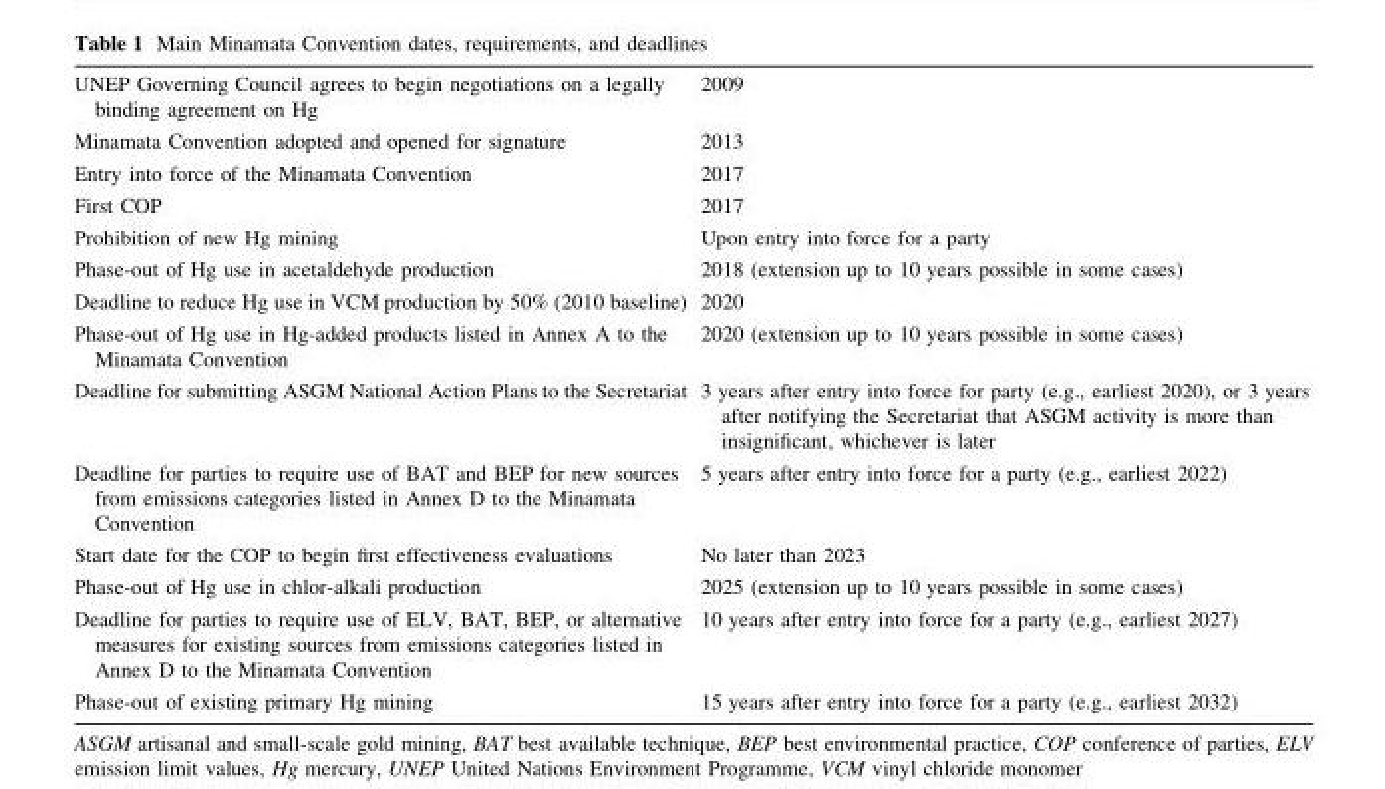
<table><tbody><tr><td>UNEP Governing Council agrees to begin negotiations on a legally binding agreement on Hg</td><td>2009</td></tr><tr><td>Minamata Convention adopted and opened for signature</td><td>2013</td></tr><tr><td>Entry into force of the Minamata Convention</td><td>2017</td></tr><tr><td>First COP</td><td>2017</td></tr><tr><td>Prohibition of new Hg mining</td><td>Upon entry into force for a party</td></tr><tr><td>Phase-out of Hg use in acetaldehyde production</td><td>2018 (extension up to 10 years possible in some cases)</td></tr><tr><td>Deadline to reduce Hg use in VCM production by 50% (2010 baseline)</td><td>2020</td></tr><tr><td>Phase-out of Hg use in Hg-added products listed in Annex A to the Minamata Convention</td><td>2020 (extension up to 10 years possible in some cases)</td></tr><tr><td>Deadline for submitting ASGM National Action Plans to the Secretariat</td><td>3 years after entry into force for party (e.g., earliest 2020), or 3 years after notifying the Secretariat that ASGM activity is more than insignificant, whichever is later</td></tr><tr><td>Deadline for parties to require use of BAT and BEP for new sources from emissions categories listed in Annex D to the Minamata Convention</td><td>5 years after entry into force for a party (e.g., earliest 2022)</td></tr><tr><td>Start date for the COP to begin first effectiveness evaluations</td><td>No later than 2023</td></tr><tr><td>Phase-out of Hg use in chlor-alkali production</td><td>2025 (extension up to 10 years possible in some cases)</td></tr><tr><td>Deadline for parties to require use of ELV, BAT, BEP, or alternative measures for existing sources from emissions categories listed in Annex D to the Minamata Convention</td><td>10 years after entry into force for a party (e.g., earliest 2027)</td></tr><tr><td>Phase-out of existing primary Hg mining</td><td>15 years after entry into force for a party (e.g., earliest 2032)</td></tr></tbody></table>